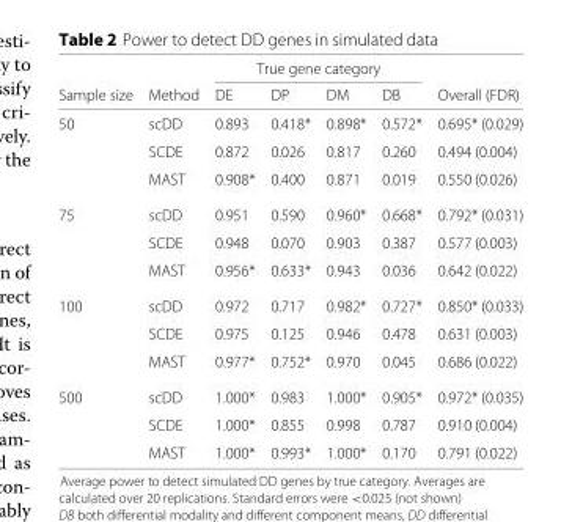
<table><thead><tr><td rowspan="2">Sample size</td><td rowspan="2">Method</td><td colspan="4">True gene category</td><td rowspan="2">Overall (FDR)</td></tr><tr><td>DE</td><td>DP</td><td>DM</td><td>DB</td></tr></thead><tbody><tr><td rowspan="3">50</td><td>scDD</td><td>0.893</td><td>0.418*</td><td>0.898*</td><td>0.572*</td><td>0.695* (0.029)</td></tr><tr><td>SCDE</td><td>0.872</td><td>0.026</td><td>0.817</td><td>0.260</td><td>0.494 (0.004)</td></tr><tr><td>MAST</td><td>0.908*</td><td>0.400</td><td>0.871</td><td>0.019</td><td>0.550 (0.026)</td></tr><tr><td rowspan="3">75</td><td>scDD</td><td>0.951</td><td>0.590</td><td>0.960*</td><td>0.668*</td><td>0.792* (0.031)</td></tr><tr><td>SCDE</td><td>0.948</td><td>0.070</td><td>0.903</td><td>0.387</td><td>0.577 (0.003)</td></tr><tr><td>MAST</td><td>0.956*</td><td>0.633*</td><td>0.943</td><td>0.036</td><td>0.642 (0.022)</td></tr><tr><td rowspan="3">100</td><td>scDD</td><td>0.972</td><td>0.717</td><td>0.982*</td><td>0.727*</td><td>0.850* (0.033)</td></tr><tr><td>SCDE</td><td>0.975</td><td>0.125</td><td>0.946</td><td>0.478</td><td>0.631 (0.003)</td></tr><tr><td>MAST</td><td>0.977*</td><td>0.752*</td><td>0.970</td><td>0.045</td><td>0.686 (0.022)</td></tr><tr><td rowspan="3">500</td><td>scDD</td><td>1.000*</td><td>0.983</td><td>1.000*</td><td>0.905*</td><td>0.972* (0.035)</td></tr><tr><td>SCDE</td><td>1.000*</td><td>0.855</td><td>0.998</td><td>0.787</td><td>0.910 (0.004)</td></tr><tr><td>MAST</td><td>1.000*</td><td>0.993*</td><td>1.000*</td><td>0.170</td><td>0.791 (0.022)</td></tr></tbody></table>